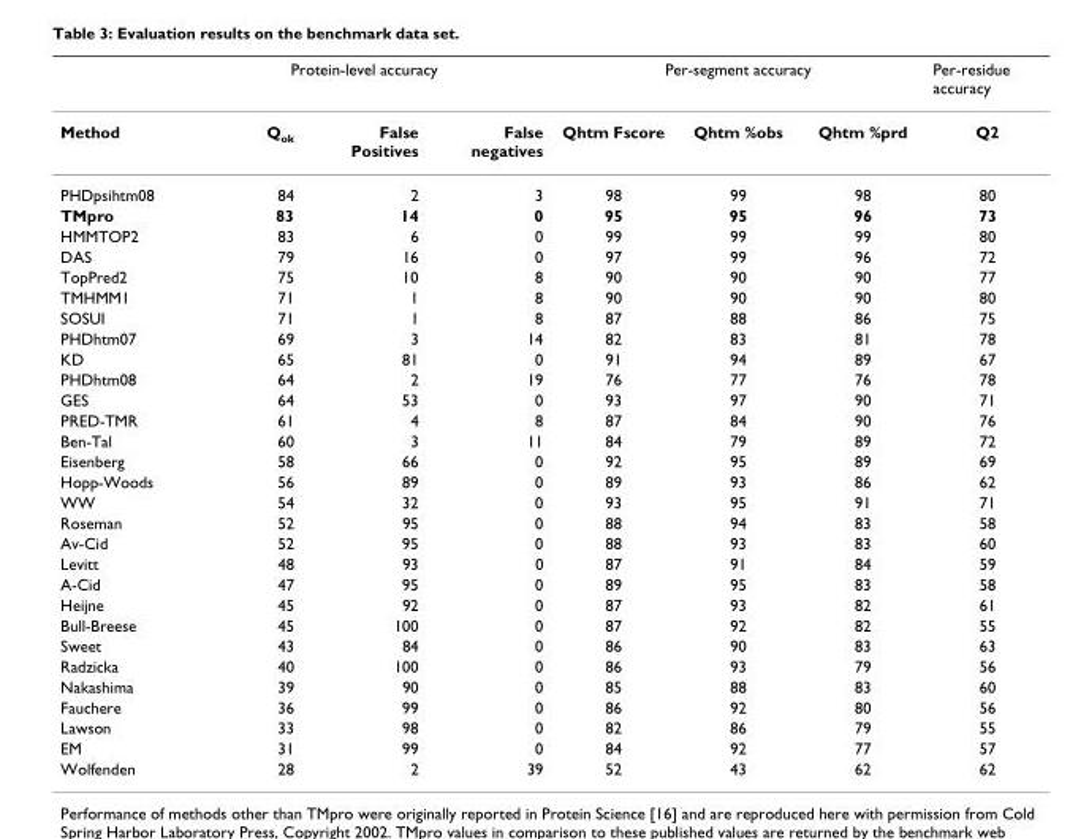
<table><thead><tr><td rowspan="2">Method</td><td colspan="3">Protein-level accuracy</td><td colspan="3">Per-segment accuracy</td><td rowspan="2">Per-residue accuracy Q2</td></tr><tr><td>Q<sub>ok</sub></td><td>False Positives</td><td>False negatives</td><td>Qhtm Fscore</td><td>Qhtm %obs</td><td>Qhtm %prd</td></tr></thead><tbody><tr><td>PHDpsihtm08</td><td>84</td><td>2</td><td>3</td><td>98</td><td>99</td><td>98</td><td>80</td></tr><tr><td>TMpro</td><td>83</td><td>14</td><td>0</td><td>95</td><td>95</td><td>96</td><td>73</td></tr><tr><td>HMMTOP2</td><td>83</td><td>6</td><td>0</td><td>99</td><td>99</td><td>99</td><td>80</td></tr><tr><td>DAS</td><td>79</td><td>16</td><td>0</td><td>97</td><td>99</td><td>96</td><td>72</td></tr><tr><td>TopPred2</td><td>75</td><td>10</td><td>8</td><td>90</td><td>90</td><td>90</td><td>77</td></tr><tr><td>TMHMM1</td><td>71</td><td>1</td><td>8</td><td>90</td><td>90</td><td>90</td><td>80</td></tr><tr><td>SOSUI</td><td>71</td><td>1</td><td>8</td><td>87</td><td>88</td><td>86</td><td>75</td></tr><tr><td>PHDhtm07</td><td>69</td><td>3</td><td>14</td><td>82</td><td>83</td><td>81</td><td>78</td></tr><tr><td>KD</td><td>65</td><td>81</td><td>0</td><td>91</td><td>94</td><td>89</td><td>67</td></tr><tr><td>PHDhtm08</td><td>64</td><td>2</td><td>19</td><td>76</td><td>77</td><td>76</td><td>78</td></tr><tr><td>GES</td><td>64</td><td>53</td><td>0</td><td>93</td><td>97</td><td>90</td><td>71</td></tr><tr><td>PRED-TMR</td><td>61</td><td>4</td><td>8</td><td>87</td><td>84</td><td>90</td><td>76</td></tr><tr><td>Ben-Tal</td><td>60</td><td>3</td><td>11</td><td>84</td><td>79</td><td>89</td><td>72</td></tr><tr><td>Eisenberg</td><td>58</td><td>66</td><td>0</td><td>92</td><td>95</td><td>89</td><td>69</td></tr><tr><td>Hopp-Woods</td><td>56</td><td>89</td><td>0</td><td>89</td><td>93</td><td>86</td><td>62</td></tr><tr><td>WW</td><td>54</td><td>32</td><td>0</td><td>93</td><td>95</td><td>91</td><td>71</td></tr><tr><td>Roseman</td><td>52</td><td>95</td><td>0</td><td>88</td><td>94</td><td>83</td><td>58</td></tr><tr><td>Av-Cid</td><td>52</td><td>95</td><td>0</td><td>88</td><td>93</td><td>83</td><td>60</td></tr><tr><td>Levitt</td><td>48</td><td>93</td><td>0</td><td>87</td><td>91</td><td>84</td><td>59</td></tr><tr><td>A-Cid</td><td>47</td><td>95</td><td>0</td><td>89</td><td>95</td><td>83</td><td>58</td></tr><tr><td>Heijne</td><td>45</td><td>92</td><td>0</td><td>87</td><td>93</td><td>82</td><td>61</td></tr><tr><td>Bull-Breese</td><td>45</td><td>100</td><td>0</td><td>87</td><td>92</td><td>82</td><td>55</td></tr><tr><td>Sweet</td><td>43</td><td>84</td><td>0</td><td>86</td><td>90</td><td>83</td><td>63</td></tr><tr><td>Radzicka</td><td>40</td><td>100</td><td>0</td><td>86</td><td>93</td><td>79</td><td>56</td></tr><tr><td>Nakashima</td><td>39</td><td>90</td><td>0</td><td>85</td><td>88</td><td>83</td><td>60</td></tr><tr><td>Fauchere</td><td>36</td><td>99</td><td>0</td><td>86</td><td>92</td><td>80</td><td>56</td></tr><tr><td>Lawson</td><td>33</td><td>98</td><td>0</td><td>82</td><td>86</td><td>79</td><td>55</td></tr><tr><td>EM</td><td>31</td><td>99</td><td>0</td><td>84</td><td>92</td><td>77</td><td>57</td></tr><tr><td>Wolfenden</td><td>28</td><td>2</td><td>39</td><td>52</td><td>43</td><td>62</td><td>62</td></tr></tbody></table>